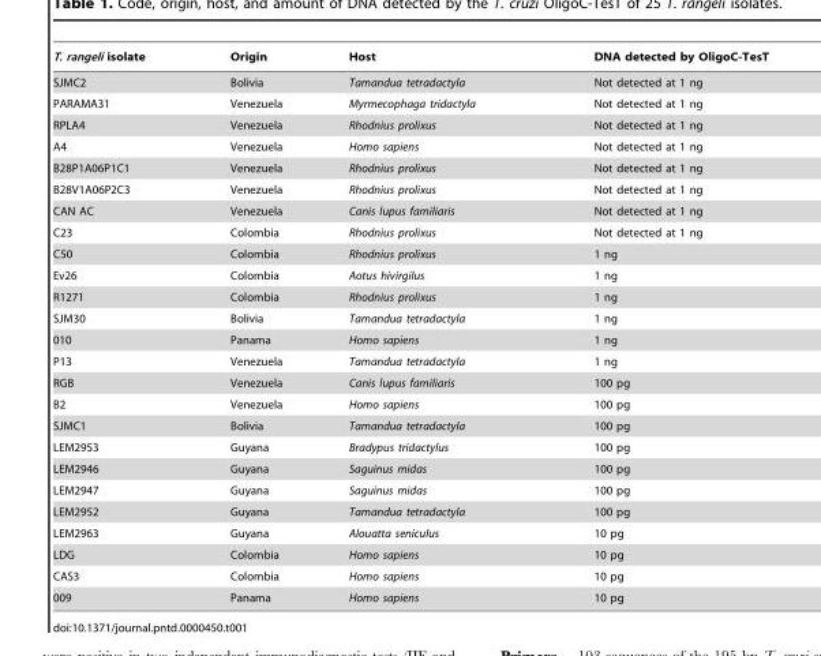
<table><thead><tr><td>T. rangeli isolate</td><td>Origin</td><td>Host</td><td>DNA detected by OligoC-TesT</td></tr></thead><tbody><tr><td>SJMC2</td><td>Bolivia</td><td>Tamandua tetradactyla</td><td>Not detected at 1 ng</td></tr><tr><td>PARAMA31</td><td>Venezuela</td><td>Myrmecophaga tridactyla</td><td>Not detected at 1 ng</td></tr><tr><td>RPLA4</td><td>Venezuela</td><td>Rhodnius prolixus</td><td>Not detected at 1 ng</td></tr><tr><td>A4</td><td>Venezuela</td><td>Homo sapiens</td><td>Not detected at 1 ng</td></tr><tr><td>B28P1A06P1C1</td><td>Venezuela</td><td>Rhodnius prolixus</td><td>Not detected at 1 ng</td></tr><tr><td>B28V1A06P2C3</td><td>Venezuela</td><td>Rhodnius prolixus</td><td>Not detected at 1 ng</td></tr><tr><td>CAN AC</td><td>Venezuela</td><td>Canis lupus familiaris</td><td>Not detected at 1 ng</td></tr><tr><td>C23</td><td>Colombia</td><td>Rhodnius prolixus</td><td>Not detected at 1 ng</td></tr><tr><td>C50</td><td>Colombia</td><td>Rhodnius prolixus</td><td>1 ng</td></tr><tr><td>Ev26</td><td>Colombia</td><td>Aotus hivirgilus</td><td>1 ng</td></tr><tr><td>R1271</td><td>Colombia</td><td>Rhodnius prolixus</td><td>1 ng</td></tr><tr><td>SJM30</td><td>Bolivia</td><td>Tamandua tetradactyla</td><td>1 ng</td></tr><tr><td>010</td><td>Panama</td><td>Homo sapiens</td><td>1 ng</td></tr><tr><td>P13</td><td>Venezuela</td><td>Tamandua tetradactyla</td><td>1 ng</td></tr><tr><td>RGB</td><td>Venezuela</td><td>Canis lupus familiaris</td><td>100 pg</td></tr><tr><td>B2</td><td>Venezuela</td><td>Homo sapiens</td><td>100 pg</td></tr><tr><td>SJMC1</td><td>Bolivia</td><td>Tamandua tetradactyla</td><td>100 pg</td></tr><tr><td>LEM2953</td><td>Guyana</td><td>Bradypus tridactylus</td><td>100 pg</td></tr><tr><td>LEM2946</td><td>Guyana</td><td>Saguinus midas</td><td>100 pg</td></tr><tr><td>LEM2947</td><td>Guyana</td><td>Saguinus midas</td><td>100 pg</td></tr><tr><td>LEM2952</td><td>Guyana</td><td>Tamandua tetradactyla</td><td>100 pg</td></tr><tr><td>LEM2963</td><td>Guyana</td><td>Alouatta seniculus</td><td>10 pg</td></tr><tr><td>LDG</td><td>Colombia</td><td>Homo sapiens</td><td>10 pg</td></tr><tr><td>CAS3</td><td>Colombia</td><td>Homo sapiens</td><td>10 pg</td></tr><tr><td>009</td><td>Panama</td><td>Homo sapiens</td><td>10 pg</td></tr></tbody></table>